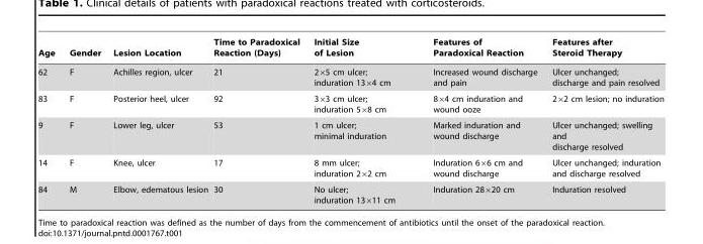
<table><thead><tr><td>Age</td><td>Gender</td><td>Lesion Location</td><td>Time to Paradoxical Reaction (Days)</td><td>Initial Size of Lesion</td><td>Features of Paradoxical Reaction</td><td>Features after Steroid Therapy</td></tr></thead><tbody><tr><td>62</td><td>F</td><td>Achilles region, ulcer</td><td>21</td><td>2×5 cm ulcer; induration 13×4 cm</td><td>Increased wound discharge and pain</td><td>Ulcer unchanged; discharge and pain resolved</td></tr><tr><td>83</td><td>F</td><td>Posterior heel, ulcer</td><td>92</td><td>3×3 cm ulcer; induration 5×8 cm</td><td>8×4 cm induration and wound ooze</td><td>2×2 cm lesion; no induration</td></tr><tr><td>9</td><td>F</td><td>Lower leg, ulcer</td><td>53</td><td>1 cm ulcer; minimal induration</td><td>Marked induration and wound discharge</td><td>Ulcer unchanged; swelling and discharge resolved</td></tr><tr><td>14</td><td>F</td><td>Knee, ulcer</td><td>17</td><td>8 mm ulcer; induration 2×2 cm</td><td>Induration 6×6 cm and wound discharge</td><td>Ulcer unchanged; induration and discharge resolved</td></tr><tr><td>84</td><td>M</td><td>Elbow, edematous lesion</td><td>30</td><td>No ulcer; induration 13×11 cm</td><td>Induration 28×20 cm</td><td>Induration resolved</td></tr></tbody></table>